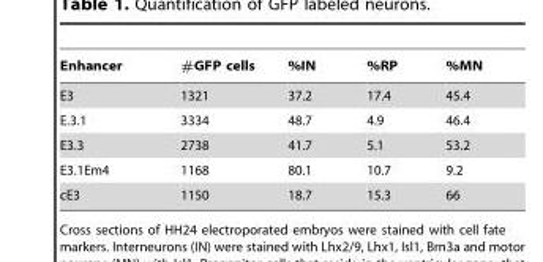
<table><thead><tr><td>Enhancer</td><td>#GFP cells</td><td>%IN</td><td>%RP</td><td>%MN</td></tr></thead><tbody><tr><td>E3</td><td>1321</td><td>37.2</td><td>17.4</td><td>45.4</td></tr><tr><td>E.3.1</td><td>3334</td><td>48.7</td><td>4.9</td><td>46.4</td></tr><tr><td>E3.3</td><td>2738</td><td>41.7</td><td>5.1</td><td>53.2</td></tr><tr><td>E3.1Em4</td><td>1168</td><td>80.1</td><td>10.7</td><td>9.2</td></tr><tr><td>cE3</td><td>1150</td><td>18.7</td><td>15.3</td><td>66</td></tr></tbody></table>